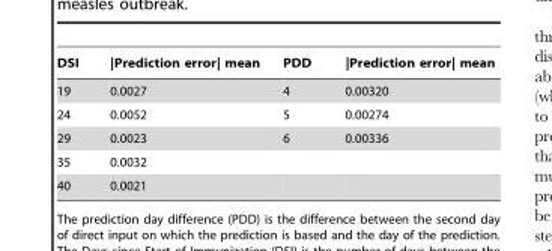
<table><thead><tr><td>DSI</td><td>|Prediction error| mean</td><td>PDD</td><td>|Prediction error| mean</td></tr></thead><tbody><tr><td>19</td><td>0.0027</td><td>4</td><td>0.00320</td></tr><tr><td>24</td><td>0.0052</td><td>5</td><td>0.00274</td></tr><tr><td>29</td><td>0.0023</td><td>6</td><td>0.00336</td></tr><tr><td>35</td><td>0.0032</td><td></td><td></td></tr><tr><td>40</td><td>0.0021</td><td></td><td></td></tr></tbody></table>